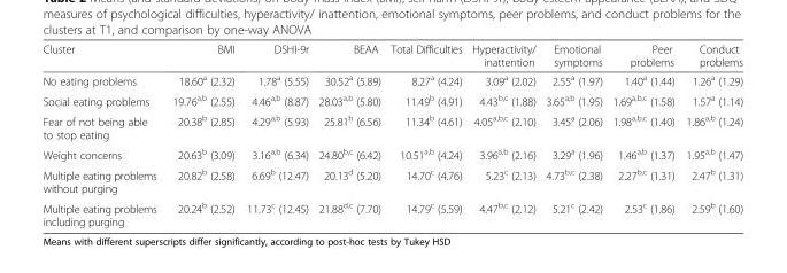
<table><thead><tr><td>Cluster</td><td>BMI</td><td>DSHI-9r</td><td>BEAA</td><td>Total Difficulties</td><td>Hyperactivity/ inattention</td><td>Emotional symptoms</td><td>Peer problems</td><td>Conduct problems</td></tr></thead><tbody><tr><td>No eating problems</td><td>18.60<sup>a</sup> (2.32)</td><td>1.78<sup>a</sup> (5.55)</td><td>30.52<sup>a</sup> (5.89)</td><td>8.27<sup>a</sup> (4.24)</td><td>3.09<sup>a</sup> (2.02)</td><td>2.55<sup>a</sup> (1.97)</td><td>1.40<sup>a</sup> (1.44)</td><td>1.26<sup>a</sup> (1.29)</td></tr><tr><td>Social eating problems</td><td>19.76<sup>a,b</sup> (2.55)</td><td>4.46<sup>a,b</sup> (8.87)</td><td>28.03<sup>a,b</sup> (5.80)</td><td>11.49<sup>b</sup> (4.91)</td><td>4.43<sup>b,c</sup> (1.88)</td><td>3.65<sup>a,b</sup> (1.95)</td><td>1.69<sup>a,b,c</sup> (1.58)</td><td>1.57<sup>a</sup> (1.14)</td></tr><tr><td>Fear of not being able to stop eating</td><td>20.38<sup>b</sup> (2.85)</td><td>4.29<sup>a,b</sup> (5.93)</td><td>25.81<sup>b</sup> (6.56)</td><td>11.34<sup>b</sup> (4.61)</td><td>4.05<sup>a,b,c</sup> (2.10)</td><td>3.45<sup>a</sup> (2.06)</td><td>1.98<sup>a,b,c</sup> (1.40)</td><td>1.86<sup>a,b</sup> (1.24)</td></tr><tr><td>Weight concerns</td><td>20.63<sup>b</sup> (3.09)</td><td>3.16<sup>a,b</sup> (6.34)</td><td>24.80<sup>b,c</sup> (6.42)</td><td>10.51<sup>a,b</sup> (4.24)</td><td>3.96<sup>a,b</sup> (2.16)</td><td>3.29<sup>a</sup> (1.96)</td><td>1.46<sup>a,b</sup> (1.37)</td><td>1.95<sup>a,b</sup> (1.47)</td></tr><tr><td>Multiple eating problems without purging</td><td>20.82<sup>b</sup> (2.58)</td><td>6.69<sup>b</sup> (12.47)</td><td>20.13<sup>d</sup> (5.20)</td><td>14.70<sup>c</sup> (4.76)</td><td>5.23<sup>c</sup> (2.13)</td><td>4.73<sup>b,c</sup> (2.38)</td><td>2.27<sup>b,c</sup> (1.31)</td><td>2.47<sup>b</sup> (1.31)</td></tr><tr><td>Multiple eating problems including purging</td><td>20.24<sup>b</sup> (2.52)</td><td>11.73<sup>c</sup> (12.45)</td><td>21.88<sup>d,c</sup> (7.70)</td><td>14.79<sup>c</sup> (5.59)</td><td>4.47<sup>b,c</sup> (2.12)</td><td>5.21<sup>c</sup> (2.42)</td><td>2.53<sup>c</sup> (1.86)</td><td>2.59<sup>b</sup> (1.60)</td></tr></tbody></table>